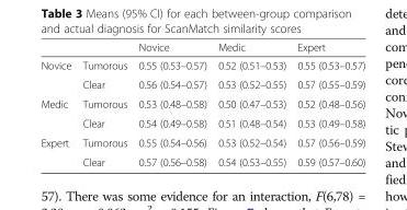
<table><thead><tr><td></td><td></td><td>Novice</td><td>Medic</td><td>Expert</td></tr></thead><tbody><tr><td rowspan="2">Novice</td><td>Tumorous</td><td>0.55 (0.53–0.57)</td><td>0.52 (0.51–0.53)</td><td>0.55 (0.53–0.57)</td></tr><tr><td>Clear</td><td>0.56 (0.54–0.57)</td><td>0.53 (0.52–0.55)</td><td>0.57 (0.55–0.59)</td></tr><tr><td rowspan="2">Medic</td><td>Tumorous</td><td>0.53 (0.48–0.58)</td><td>0.50 (0.47–0.53)</td><td>0.52 (0.48–0.56)</td></tr><tr><td>Clear</td><td>0.54 (0.49–0.58)</td><td>0.51 (0.48–0.54)</td><td>0.53 (0.49–0.58)</td></tr><tr><td rowspan="2">Expert</td><td>Tumorous</td><td>0.55 (0.54–0.56)</td><td>0.53 (0.52–0.54)</td><td>0.57 (0.56–0.59)</td></tr><tr><td>Clear</td><td>0.57 (0.56–0.58)</td><td>0.54 (0.53–0.55)</td><td>0.59 (0.57–0.60)</td></tr></tbody></table>